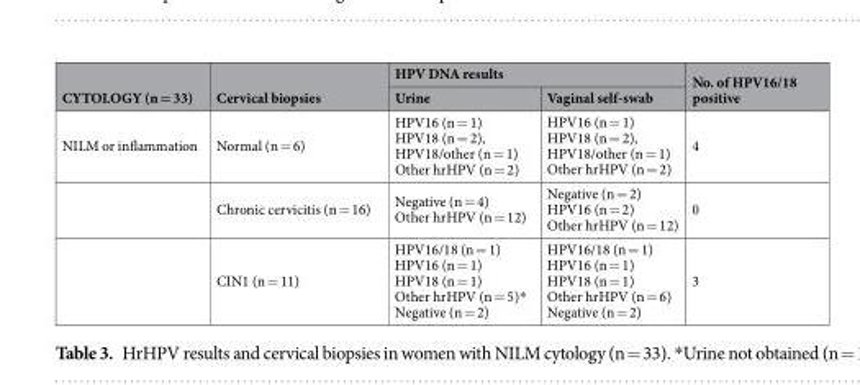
<table><thead><tr><td rowspan="2">CYTOLOGY (n = 33)</td><td rowspan="2">Cervical biopsies</td><td colspan="2">HPV DNA results</td><td rowspan="2">No. of HPV16/18 positive</td></tr><tr><td>Urine</td><td>Vaginal self-swab</td></tr></thead><tbody><tr><td rowspan="3">NILM or inflammation</td><td>Normal (n = 6)</td><td>HPV16 (n = 1) HPV18 (n = 2), HPV18/other (n = 1) Other hrHPV (n = 2)</td><td>HPV16 (n = 1) HPV18 (n = 2), HPV18/other (n = 1) Other hrHPV (n = 2)</td><td>4</td></tr><tr><td>Chronic cervicitis (n = 16)</td><td>Negative (n = 4) Other hrHPV (n = 12)</td><td>Negative (n = 2) HPV16 (n = 2) Other hrHPV (n = 12)</td><td>0</td></tr><tr><td>CIN1 (n = 11)</td><td>HPV16/18 (n = 1) HPV16 (n = 1) HPV18 (n = 1) Other hrHPV (n = 5)* Negative (n = 2)</td><td>HPV16/18 (n = 1) HPV16 (n = 1) HPV18 (n = 1) Other hrHPV (n = 6) Negative (n = 2)</td><td>3</td></tr></tbody></table>